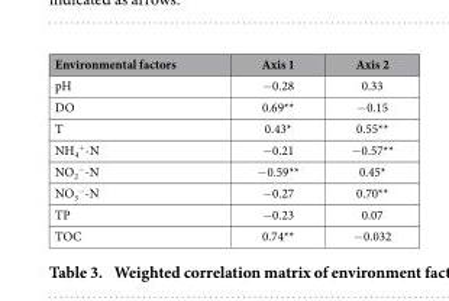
<table><thead><tr><td>Environmental factors</td><td>Axis 1</td><td>Axis 2</td></tr></thead><tbody><tr><td>pH</td><td>− 0.28</td><td>0.33</td></tr><tr><td>DO</td><td>0.69**</td><td>− 0.15</td></tr><tr><td>T</td><td>0.43*</td><td>0.55**</td></tr><tr><td>NH<sub>4</sub> <sup>+</sup>-N</td><td>− 0.21</td><td>− 0.57**</td></tr><tr><td>NO<sub>2</sub> <sup>−</sup>-N</td><td>− 0.59**</td><td>0.45*</td></tr><tr><td>NO<sub>3</sub> <sup>−</sup>-N</td><td>− 0.27</td><td>0.70**</td></tr><tr><td>TP</td><td>− 0.23</td><td>0.07</td></tr><tr><td>TOC</td><td>0.74**</td><td>− 0.032</td></tr></tbody></table>